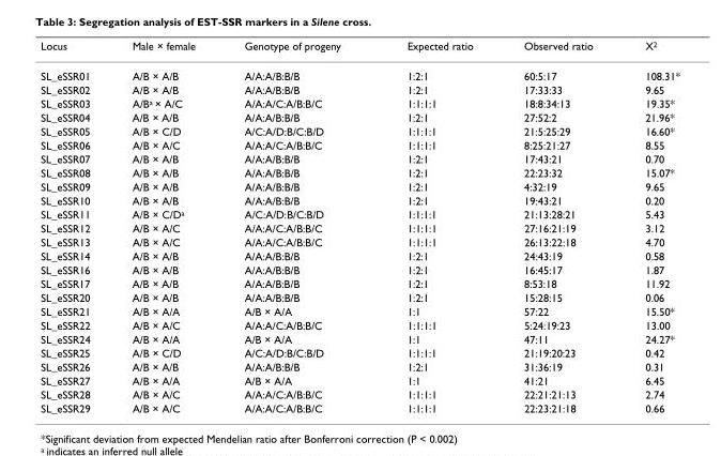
<table><thead><tr><td>Locus</td><td>Male × female</td><td>Genotype of progeny</td><td>Expected ratio</td><td>Observed ratio</td><td>X<sup>2</sup></td></tr></thead><tbody><tr><td>SL_eSSR01</td><td>A/B × A/B</td><td>A/A:A/B:B/B</td><td>1:2:1</td><td>60:5:17</td><td>108.31*</td></tr><tr><td>SL_eSSR02</td><td>A/B × A/B</td><td>A/A:A/B:B/B</td><td>1:2:1</td><td>17:33:33</td><td>9.65</td></tr><tr><td>SL_eSSR03</td><td>A/B<sup>a</sup> × A/C</td><td>A/A:A/C:A/B:B/C</td><td>1:1:1:1</td><td>18:8:34:13</td><td>19.35*</td></tr><tr><td>SL_eSSR04</td><td>A/B × A/B</td><td>A/A:A/B:B/B</td><td>1:2:1</td><td>27:52:2</td><td>21.96*</td></tr><tr><td>SL_eSSR05</td><td>A/B × C/D</td><td>A/C:A/D:B/C:B/D</td><td>1:1:1:1</td><td>21:5:25:29</td><td>16.60*</td></tr><tr><td>SL_eSSR06</td><td>A/B × A/C</td><td>A/A:A/C:A/B:B/C</td><td>1:1:1:1</td><td>8:25:21:27</td><td>8.55</td></tr><tr><td>SL_eSSR07</td><td>A/B × A/B</td><td>A/A:A/B:B/B</td><td>1:2:1</td><td>17:43:21</td><td>0.70</td></tr><tr><td>SL_eSSR08</td><td>A/B × A/B</td><td>A/A:A/B:B/B</td><td>1:2:1</td><td>22:23:32</td><td>15.07*</td></tr><tr><td>SL_eSSR09</td><td>A/B × A/B</td><td>A/A:A/B:B/B</td><td>1:2:1</td><td>4:32:19</td><td>9.65</td></tr><tr><td>SL_eSSR10</td><td>A/B × A/B</td><td>A/A:A/B:B/B</td><td>1:2:1</td><td>19:43:21</td><td>0.20</td></tr><tr><td>SL_eSSR11</td><td>A/B × C/D<sup>a</sup></td><td>A/C:A/D:B/C:B/D</td><td>1:1:1:1</td><td>21:13:28:21</td><td>5.43</td></tr><tr><td>SL_eSSR12</td><td>A/B × A/C</td><td>A/A:A/C:A/B:B/C</td><td>1:1:1:1</td><td>27:16:21:19</td><td>3.12</td></tr><tr><td>SL_eSSR13</td><td>A/B × A/C</td><td>A/A:A/C:A/B:B/C</td><td>1:1:1:1</td><td>26:13:22:18</td><td>4.70</td></tr><tr><td>SL_eSSR14</td><td>A/B × A/B</td><td>A/A:A/B:B/B</td><td>1:2:1</td><td>24:43:19</td><td>0.58</td></tr><tr><td>SL_eSSR16</td><td>A/B × A/B</td><td>A/A:A/B:B/B</td><td>1:2:1</td><td>16:45:17</td><td>1.87</td></tr><tr><td>SL_eSSR17</td><td>A/B × A/B</td><td>A/A:A/B:B/B</td><td>1:2:1</td><td>8:53:18</td><td>11.92</td></tr><tr><td>SL_eSSR20</td><td>A/B × A/B</td><td>A/A:A/B:B/B</td><td>1:2:1</td><td>15:28:15</td><td>0.06</td></tr><tr><td>SL_eSSR21</td><td>A/B × A/A</td><td>A/B × A/A</td><td>1:1</td><td>57:22</td><td>15.50*</td></tr><tr><td>SL_eSSR22</td><td>A/B × A/C</td><td>A/A:A/C:A/B:B/C</td><td>1:1:1:1</td><td>5:24:19:23</td><td>13.00</td></tr><tr><td>SL_eSSR24</td><td>A/B × A/A</td><td>A/B × A/A</td><td>1:1</td><td>47:11</td><td>24.27*</td></tr><tr><td>SL_eSSR25</td><td>A/B × C/D</td><td>A/C:A/D:B/C:B/D</td><td>1:1:1:1</td><td>21:19:20:23</td><td>0.42</td></tr><tr><td>SL_eSSR26</td><td>A/B × A/B</td><td>A/A:A/B:B/B</td><td>1:2:1</td><td>31:36:19</td><td>0.31</td></tr><tr><td>SL_eSSR27</td><td>A/B × A/A</td><td>A/B × A/A</td><td>1:1</td><td>41:21</td><td>6.45</td></tr><tr><td>SL_eSSR28</td><td>A/B × A/C</td><td>A/A:A/C:A/B:B/C</td><td>1:1:1:1</td><td>22:21:21:13</td><td>2.74</td></tr><tr><td>SL_eSSR29</td><td>A/B × A/C</td><td>A/A:A/C:A/B:B/C</td><td>1:1:1:1</td><td>22:23:21:18</td><td>0.66</td></tr></tbody></table>